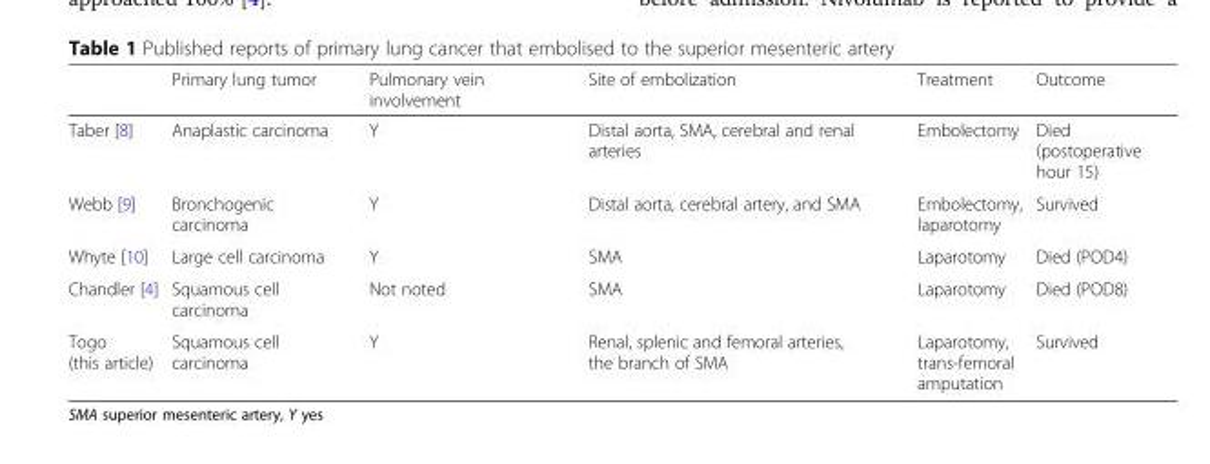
<table><thead><tr><td></td><td>Primary lung tumor</td><td>Pulmonary vein involvement</td><td>Site of embolization</td><td>Treatment</td><td>Outcome</td></tr></thead><tbody><tr><td>Taber [8]</td><td>Anaplastic carcinoma</td><td>Y</td><td>Distal aorta, SMA, cerebral and renal arteries</td><td>Embolectomy</td><td>Died (postoperative hour 15)</td></tr><tr><td>Webb [9]</td><td>Bronchogenic carcinoma</td><td>Y</td><td>Distal aorta, cerebral artery, and SMA</td><td>Embolectomy, laparotomy</td><td>Survived</td></tr><tr><td>Whyte [10]</td><td>Large cell carcinoma</td><td>Y</td><td>SMA</td><td>Laparotomy</td><td>Died (POD4)</td></tr><tr><td>Chandler [4]</td><td>Squamous cell carcinoma</td><td>Not noted</td><td>SMA</td><td>Laparotomy</td><td>Died (POD8)</td></tr><tr><td>Togo (this article)</td><td>Squamous cell carcinoma</td><td>Y</td><td>Renal, splenic and femoral arteries, the branch of SMA</td><td>Laparotomy, trans-femoral amputation</td><td>Survived</td></tr></tbody></table>